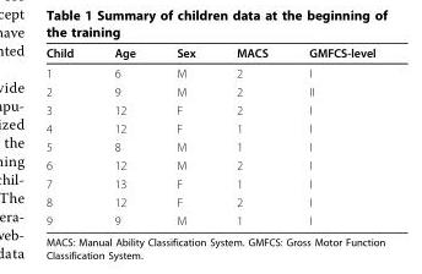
<table><thead><tr><td>Child</td><td>Age</td><td>Sex</td><td>MACS</td><td>GMFCS-level</td></tr></thead><tbody><tr><td>1</td><td>6</td><td>M</td><td>2</td><td>I</td></tr><tr><td>2</td><td>9</td><td>M</td><td>2</td><td>II</td></tr><tr><td>3</td><td>12</td><td>F</td><td>2</td><td>I</td></tr><tr><td>4</td><td>12</td><td>F</td><td>1</td><td>I</td></tr><tr><td>5</td><td>8</td><td>M</td><td>1</td><td>I</td></tr><tr><td>6</td><td>12</td><td>M</td><td>2</td><td>I</td></tr><tr><td>7</td><td>13</td><td>F</td><td>1</td><td>I</td></tr><tr><td>8</td><td>12</td><td>F</td><td>2</td><td>I</td></tr><tr><td>9</td><td>9</td><td>M</td><td>1</td><td>I</td></tr></tbody></table>